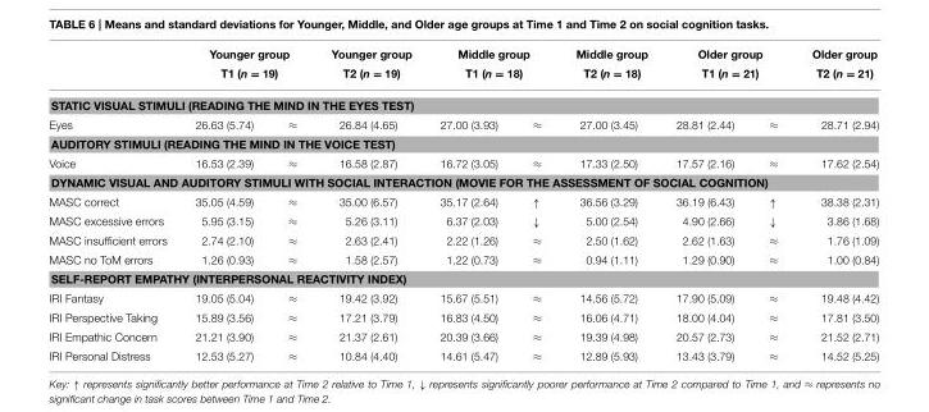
<table><thead><tr><td rowspan="2"></td><td rowspan="2" colspan="2">Younger group T1 (n = 19)</td><td rowspan="2">Younger group T2 (n = 19)</td><td rowspan="2" colspan="2">Middle group T1 (n = 18)</td><td rowspan="2">Middle group T2 (n = 18)</td><td rowspan="2" colspan="2">Older group T1 (n = 21)</td><td rowspan="2">Older group T2 (n = 21)</td></tr><tr></tr><tr><td colspan="10">STATIC VISUAL STIMULI (READING THE MIND IN THE EYES TEST)</td></tr><tr><td>Eyes</td><td>26.63 (5.74)</td><td>≈</td><td>26.84 (4.65)</td><td>27.00 (3.93)</td><td>≈</td><td>27.00 (3.45)</td><td>28.81 (2.44)</td><td>≈</td><td>28.71 (2.94)</td></tr></thead><tbody><tr><td colspan="10">AUDITORY STIMULI (READING THE MIND IN THE VOICE TEST)</td></tr><tr><td>Voice</td><td>16.53 (2.39)</td><td>≈</td><td>16.58 (2.87)</td><td>16.72 (3.05)</td><td>≈</td><td>17.33 (2.50)</td><td>17.57 (2.16)</td><td>≈</td><td>17.62 (2.54)</td></tr><tr><td colspan="10">DYNAMIC VISUAL AND AUDITORY STIMULI WITH SOCIAL INTERACTION (MOVIE FOR THE ASSESSMENT OF SOCIAL COGNITION)</td></tr><tr><td>MASC correct</td><td>35.05 (4.59)</td><td>≈</td><td>35.00 (6.57)</td><td>35.17 (2.64)</td><td>↑</td><td>36.56 (3.29)</td><td>36.19 (6.43)</td><td>↑</td><td>38.38 (2.31)</td></tr><tr><td>MASC excessive errors</td><td>5.95 (3.15)</td><td>≈</td><td>5.26 (3.11)</td><td>6.37 (2.03)</td><td>↓</td><td>5.00 (2.54)</td><td>4.90 (2.66)</td><td>↓</td><td>3.86 (1.68)</td></tr><tr><td>MASC insufficient errors</td><td>2.74 (2.10)</td><td>≈</td><td>2.63 (2.41)</td><td>2.22 (1.26)</td><td>≈</td><td>2.50 (1.62)</td><td>2.62 (1.63)</td><td>≈</td><td>1.76 (1.09)</td></tr><tr><td>MASC no ToM errors</td><td>1.26 (0.93)</td><td>≈</td><td>1.58 (2.57)</td><td>1.22 (0.73)</td><td>≈</td><td>0.94 (1.11)</td><td>1.29 (0.90)</td><td>≈</td><td>1.00 (0.84)</td></tr><tr><td colspan="10">SELF-REPORT EMPATHY (INTERPERSONAL REACTIVITY INDEX)</td></tr><tr><td>IRI Fantasy</td><td>19.05 (5.04)</td><td>≈</td><td>19.42 (3.92)</td><td>15.67 (5.51)</td><td>≈</td><td>14.56 (5.72)</td><td>17.90 (5.09)</td><td>≈</td><td>19.48 (4.42)</td></tr><tr><td>IRI Perspective Taking</td><td>15.89 (3.56)</td><td>≈</td><td>17.21 (3.79)</td><td>16.83 (4.50)</td><td>≈</td><td>16.06 (4.71)</td><td>18.00 (4.04)</td><td>≈</td><td>17.81 (3.50)</td></tr><tr><td>IRI Empathic Concern</td><td>21.21 (3.90)</td><td>≈</td><td>21.37 (2.61)</td><td>20.39 (3.66)</td><td>≈</td><td>19.39 (4.98)</td><td>20.57 (2.73)</td><td>≈</td><td>21.52 (2.71)</td></tr><tr><td>IRI Personal Distress</td><td>12.53 (5.27)</td><td>≈</td><td>10.84 (4.40)</td><td>14.61 (5.47)</td><td>≈</td><td>12.89 (5.93)</td><td>13.43 (3.79)</td><td>≈</td><td>14.52 (5.25)</td></tr></tbody></table>